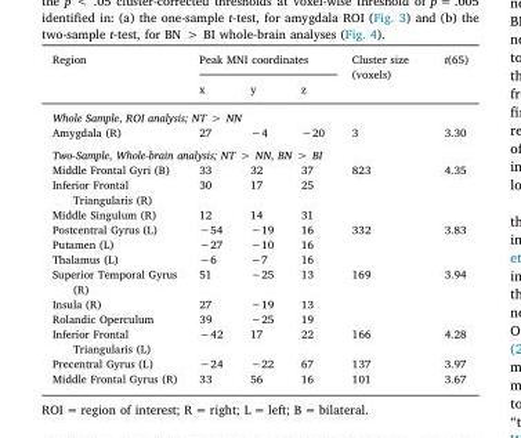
<table><thead><tr><td rowspan="2">Region</td><td colspan="3">Peak MNI coordinates</td><td rowspan="2">Cluster size (voxels)</td><td rowspan="2">t(65)</td></tr><tr><td>x</td><td>y</td><td>z</td></tr></thead><tbody><tr><td colspan="6">Whole Sample, ROI analysis; NT &gt; NN</td></tr><tr><td>Amygdala (R)</td><td>27</td><td>−4</td><td>−20</td><td>3</td><td>3.30</td></tr><tr><td colspan="6">Two-Sample, Whole-brain analysis; NT &gt; NN, BN &gt; BI</td></tr><tr><td>Middle Frontal Gyri (B)</td><td>33</td><td>32</td><td>37</td><td>823</td><td>4.35</td></tr><tr><td>Inferior Frontal Triangularis (R)</td><td>30</td><td>17</td><td>25</td><td></td><td></td></tr><tr><td>Middle Singulum (R)</td><td>12</td><td>14</td><td>31</td><td></td><td></td></tr><tr><td>Postcentral Gyrus (L)</td><td>−54</td><td>−19</td><td>16</td><td>332</td><td>3.83</td></tr><tr><td>Putamen (L)</td><td>−27</td><td>−10</td><td>16</td><td></td><td></td></tr><tr><td>Thalamus (L)</td><td>−6</td><td>−7</td><td>16</td><td></td><td></td></tr><tr><td>Superior Temporal Gyrus (R)</td><td>51</td><td>−25</td><td>13</td><td>169</td><td>3.94</td></tr><tr><td>Insula (R)</td><td>27</td><td>−19</td><td>13</td><td></td><td></td></tr><tr><td>Rolandic Operculum</td><td>39</td><td>−25</td><td>19</td><td></td><td></td></tr><tr><td>Inferior Frontal Triangularis (L)</td><td>−42</td><td>17</td><td>22</td><td>166</td><td>4.28</td></tr><tr><td>Precentral Gyrus (L)</td><td>−24</td><td>−22</td><td>67</td><td>137</td><td>3.97</td></tr><tr><td>Middle Frontal Gyrus (R)</td><td>33</td><td>56</td><td>16</td><td>101</td><td>3.67</td></tr></tbody></table>